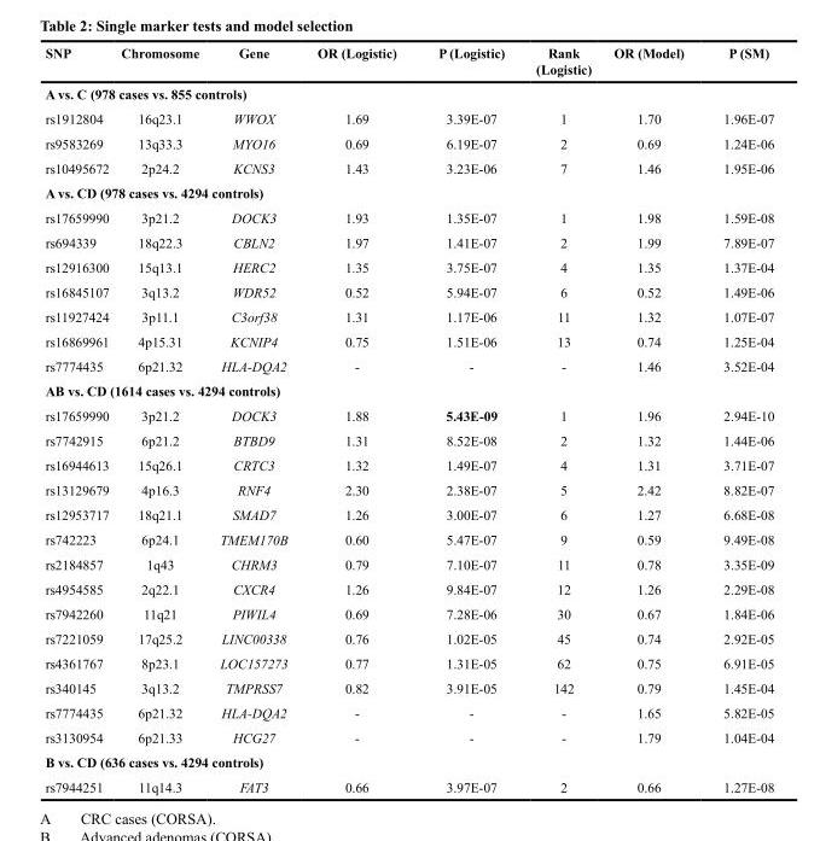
<table><thead><tr><td>SNP</td><td>Chromosome</td><td>Gene</td><td>OR (Logistic)</td><td>P (Logistic)</td><td>Rank (Logistic)</td><td>OR (Model)</td><td>P (SM)</td></tr></thead><tbody><tr><td colspan="8">A vs. C (978 cases vs. 855 controls)</td></tr><tr><td>rs1912804</td><td>16q23.1</td><td>WWOX</td><td>1.69</td><td>3.39E-07</td><td>1</td><td>1.70</td><td>1.96E-07</td></tr><tr><td>rs9583269</td><td>13q33.3</td><td>MYO16</td><td>0.69</td><td>6.19E-07</td><td>2</td><td>0.69</td><td>1.24E-06</td></tr><tr><td>rs10495672</td><td>2p24.2</td><td>KCNS3</td><td>1.43</td><td>3.23E-06</td><td>7</td><td>1.46</td><td>1.95E-06</td></tr><tr><td colspan="8">A vs. CD (978 cases vs. 4294 controls)</td></tr><tr><td>rs17659990</td><td>3p21.2</td><td>DOCK3</td><td>1.93</td><td>1.35E-07</td><td>1</td><td>1.98</td><td>1.59E-08</td></tr><tr><td>rs694339</td><td>18q22.3</td><td>CBLN2</td><td>1.97</td><td>1.41E-07</td><td>2</td><td>1.99</td><td>7.89E-07</td></tr><tr><td>rs12916300</td><td>15q13.1</td><td>HERC2</td><td>1.35</td><td>3.75E-07</td><td>4</td><td>1.35</td><td>1.37E-04</td></tr><tr><td>rs16845107</td><td>3q13.2</td><td>WDR52</td><td>0.52</td><td>5.94E-07</td><td>6</td><td>0.52</td><td>1.49E-06</td></tr><tr><td>rs11927424</td><td>3p11.1</td><td>C3orf38</td><td>1.31</td><td>1.17E-06</td><td>11</td><td>1.32</td><td>1.07E-07</td></tr><tr><td>rs16869961</td><td>4p15.31</td><td>KCNIP4</td><td>0.75</td><td>1.51E-06</td><td>13</td><td>0.74</td><td>1.25E-04</td></tr><tr><td>rs7774435</td><td>6p21.32</td><td>HLA-DQA2</td><td>-</td><td>-</td><td>-</td><td>1.46</td><td>3.52E-04</td></tr><tr><td colspan="8">AB vs. CD (1614 cases vs. 4294 controls)</td></tr><tr><td>rs17659990</td><td>3p21.2</td><td>DOCK3</td><td>1.88</td><td>5.43E-09</td><td>1</td><td>1.96</td><td>2.94E-10</td></tr><tr><td>rs7742915</td><td>6p21.2</td><td>BTBD9</td><td>1.31</td><td>8.52E-08</td><td>2</td><td>1.32</td><td>1.44E-06</td></tr><tr><td>rs16944613</td><td>15q26.1</td><td>CRTC3</td><td>1.32</td><td>1.49E-07</td><td>4</td><td>1.31</td><td>3.71E-07</td></tr><tr><td>rs13129679</td><td>4p16.3</td><td>RNF4</td><td>2.30</td><td>2.38E-07</td><td>5</td><td>2.42</td><td>8.82E-07</td></tr><tr><td>rs12953717</td><td>18q21.1</td><td>SMAD7</td><td>1.26</td><td>3.00E-07</td><td>6</td><td>1.27</td><td>6.68E-08</td></tr><tr><td>rs742223</td><td>6p24.1</td><td>TMEM170B</td><td>0.60</td><td>5.47E-07</td><td>9</td><td>0.59</td><td>9.49E-08</td></tr><tr><td>rs2184857</td><td>1q43</td><td>CHRM3</td><td>0.79</td><td>7.10E-07</td><td>11</td><td>0.78</td><td>3.35E-09</td></tr><tr><td>rs4954585</td><td>2q22.1</td><td>CXCR4</td><td>1.26</td><td>9.84E-07</td><td>12</td><td>1.26</td><td>2.29E-08</td></tr><tr><td>rs7942260</td><td>11q21</td><td>PIWIL4</td><td>0.69</td><td>7.28E-06</td><td>30</td><td>0.67</td><td>1.84E-06</td></tr><tr><td>rs7221059</td><td>17q25.2</td><td>LINC00338</td><td>0.76</td><td>1.02E-05</td><td>45</td><td>0.74</td><td>2.92E-05</td></tr><tr><td>rs4361767</td><td>8p23.1</td><td>LOC157273</td><td>0.77</td><td>1.31E-05</td><td>62</td><td>0.75</td><td>6.91E-05</td></tr><tr><td>rs340145</td><td>3q13.2</td><td>TMPRSS7</td><td>0.82</td><td>3.91E-05</td><td>142</td><td>0.79</td><td>1.45E-04</td></tr><tr><td>rs7774435</td><td>6p21.32</td><td>HLA-DQA2</td><td>-</td><td>-</td><td>-</td><td>1.65</td><td>5.82E-05</td></tr><tr><td>rs3130954</td><td>6p21.33</td><td>HCG27</td><td>-</td><td>-</td><td>-</td><td>1.79</td><td>1.04E-04</td></tr><tr><td colspan="8">B vs. CD (636 cases vs. 4294 controls)</td></tr><tr><td>rs7944251</td><td>11q14.3</td><td>FAT3</td><td>0.66</td><td>3.97E-07</td><td>2</td><td>0.66</td><td>1.27E-08</td></tr></tbody></table>